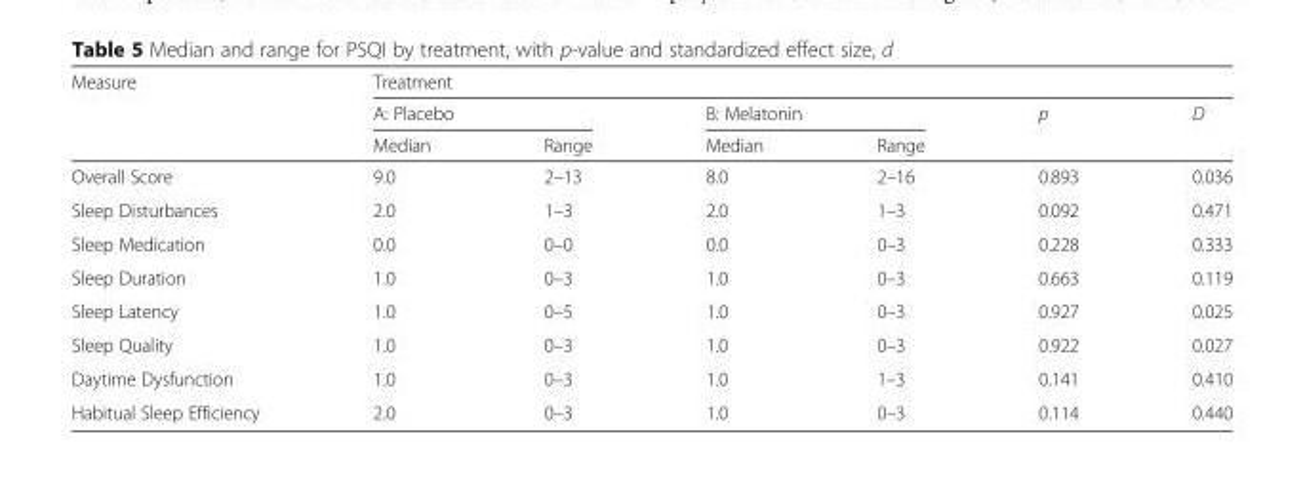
<table><thead><tr><td rowspan="3">Measure</td><td colspan="6">Treatment</td></tr><tr><td colspan="2">A: Placebo</td><td colspan="2">B: Melatonin</td><td rowspan="2">p</td><td rowspan="2">D</td></tr><tr><td>Median</td><td>Range</td><td>Median</td><td>Range</td></tr></thead><tbody><tr><td>Overall Score</td><td>9.0</td><td>2–13</td><td>8.0</td><td>2–16</td><td>0.893</td><td>0.036</td></tr><tr><td>Sleep Disturbances</td><td>2.0</td><td>1–3</td><td>2.0</td><td>1–3</td><td>0.092</td><td>0.471</td></tr><tr><td>Sleep Medication</td><td>0.0</td><td>0–0</td><td>0.0</td><td>0–3</td><td>0.228</td><td>0.333</td></tr><tr><td>Sleep Duration</td><td>1.0</td><td>0–3</td><td>1.0</td><td>0–3</td><td>0.663</td><td>0.119</td></tr><tr><td>Sleep Latency</td><td>1.0</td><td>0–5</td><td>1.0</td><td>0–3</td><td>0.927</td><td>0.025</td></tr><tr><td>Sleep Quality</td><td>1.0</td><td>0–3</td><td>1.0</td><td>0–3</td><td>0.922</td><td>0.027</td></tr><tr><td>Daytime Dysfunction</td><td>1.0</td><td>0–3</td><td>1.0</td><td>1–3</td><td>0.141</td><td>0.410</td></tr><tr><td>Habitual Sleep Efficiency</td><td>2.0</td><td>0–3</td><td>1.0</td><td>0–3</td><td>0.114</td><td>0.440</td></tr></tbody></table>